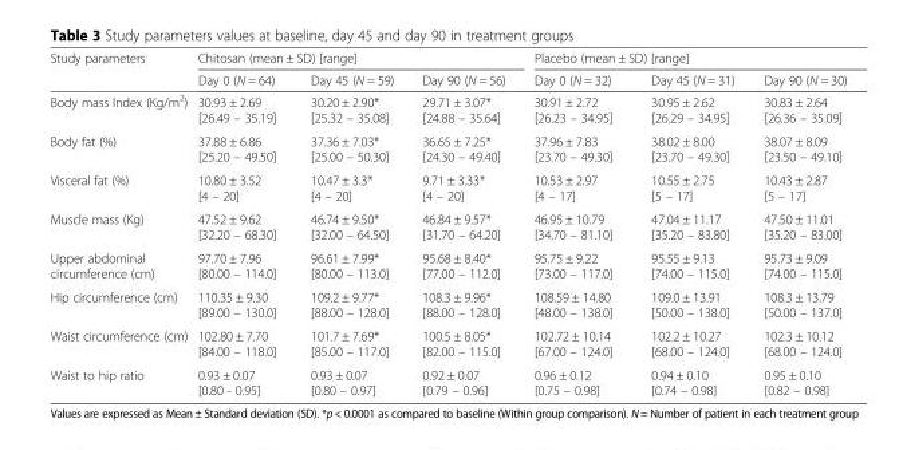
<table><thead><tr><td rowspan="2">Study parameters</td><td colspan="3">Chitosan (mean ± SD) [range]</td><td colspan="3">Placebo (mean ± SD) [range]</td></tr><tr><td>Day 0 (N = 64)</td><td>Day 45 (N = 59)</td><td>Day 90 (N = 56)</td><td>Day 0 (N = 32)</td><td>Day 45 (N = 31)</td><td>Day 90 (N = 30)</td></tr></thead><tbody><tr><td>Body mass Index (Kg/m<sup>2</sup>)</td><td>30.93 ± 2.69 [26.49 – 35.19]</td><td>30.20 ± 2.90* [25.32 – 35.08]</td><td>29.71 ± 3.07* [24.88 – 35.64]</td><td>30.91 ± 2.72 [26.23 – 34.95]</td><td>30.95 ± 2.62 [26.29 – 34.95]</td><td>30.83 ± 2.64 [26.36 – 35.09]</td></tr><tr><td>Body fat (%)</td><td>37.88 ± 6.86 [25.20 – 49.50]</td><td>37.36 ± 7.03* [25.00 – 50.30]</td><td>36.65 ± 7.25* [24.30 – 49.40]</td><td>37.96 ± 7.83 [23.70 – 49.30]</td><td>38.02 ± 8.00 [23.70 – 49.30]</td><td>38.07 ± 8.09 [23.50 – 49.10]</td></tr><tr><td>Visceral fat (%)</td><td>10.80 ± 3.52 [4 – 20]</td><td>10.47 ± 3.3* [4 – 20]</td><td>9.71 ± 3.33* [4 – 20]</td><td>10.53 ± 2.97 [4 – 17]</td><td>10.55 ± 2.75 [5 – 17]</td><td>10.43 ± 2.87 [5 – 17]</td></tr><tr><td>Muscle mass (Kg)</td><td>47.52 ± 9.62 [32.20 – 68.30]</td><td>46.74 ± 9.50* [32.00 – 64.50]</td><td>46.84 ± 9.57* [31.70 – 64.20]</td><td>46.95 ± 10.79 [34.70 – 81.10]</td><td>47.04 ± 11.17 [35.20 – 83.80]</td><td>47.50 ± 11.01 [35.20 – 83.00]</td></tr><tr><td>Upper abdominal circumference (cm)</td><td>97.70 ± 7.96 [80.00 – 114.0]</td><td>96.61 ± 7.99* [80.00 – 113.0]</td><td>95.68 ± 8.40* [77.00 – 112.0]</td><td>95.75 ± 9.22 [73.00 – 117.0]</td><td>95.55 ± 9.13 [74.00 – 115.0]</td><td>95.73 ± 9.09 [74.00 – 115.0]</td></tr><tr><td>Hip circumference (cm)</td><td>110.35 ± 9.30 [89.00 – 130.0]</td><td>109.2 ± 9.77* [88.00 – 128.0]</td><td>108.3 ± 9.96* [88.00 – 128.0]</td><td>108.59 ± 14.80 [48.00 – 138.0]</td><td>109.0 ± 13.91 [50.00 – 138.0]</td><td>108.3 ± 13.79 [50.00 – 137.0]</td></tr><tr><td>Waist circumference (cm)</td><td>102.80 ± 7.70 [84.00 – 118.0]</td><td>101.7 ± 7.69* [85.00 – 117.0]</td><td>100.5 ± 8.05* [82.00 – 115.0]</td><td>102.72 ± 10.14 [67.00 – 124.0]</td><td>102.2 ± 10.27 [68.00 – 124.0]</td><td>102.3 ± 10.12 [68.00 – 124.0]</td></tr><tr><td>Waist to hip ratio</td><td>0.93 ± 0.07 [0.80 - 0.95]</td><td>0.93 ± 0.07 [0.80 – 0.97]</td><td>0.92 ± 0.07 [0.79 – 0.96]</td><td>0.96 ± 0.12 [0.75 – 0.98]</td><td>0.94 ± 0.10 [0.74 – 0.98]</td><td>0.95 ± 0.10 [0.82 – 0.98]</td></tr></tbody></table>